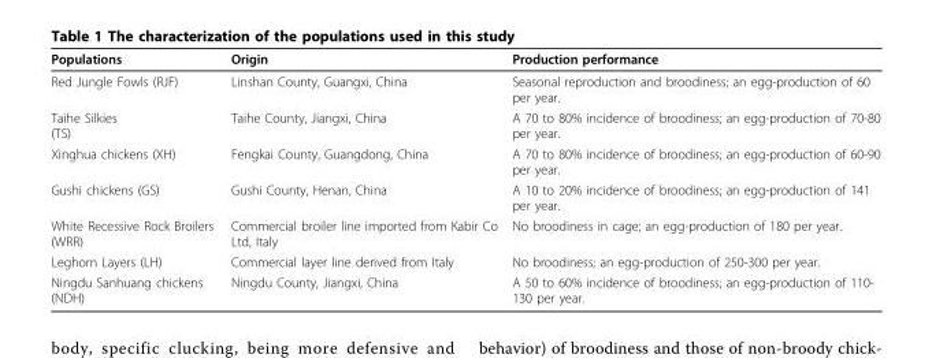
<table><thead><tr><td>Populations</td><td>Origin</td><td>Production performance</td></tr></thead><tbody><tr><td>Red Jungle Fowls (RJF)</td><td>Linshan County, Guangxi, China</td><td>Seasonal reproduction and broodiness; an egg-production of 60 per year.</td></tr><tr><td>Taihe Silkies (TS)</td><td>Taihe County, Jiangxi, China</td><td>A 70 to 80% incidence of broodiness; an egg-production of 70-80 per year.</td></tr><tr><td>Xinghua chickens (XH)</td><td>Fengkai County, Guangdong, China</td><td>A 70 to 80% incidence of broodiness; an egg-production of 60-90 per year.</td></tr><tr><td>Gushi chickens (GS)</td><td>Gushi County, Henan, China</td><td>A 10 to 20% incidence of broodiness; an egg-production of 141 per year.</td></tr><tr><td>White Recessive Rock Broilers (WRR)</td><td>Commercial broiler line imported from Kabir Co Ltd, Italy</td><td>No broodiness in cage; an egg-production of 180 per year.</td></tr><tr><td>Leghorn Layers (LH)</td><td>Commercial layer line derived from Italy</td><td>No broodiness; an egg-production of 250-300 per year.</td></tr><tr><td>Ningdu Sanhuang chickens (NDH)</td><td>Ningdu County, Jiangxi, China</td><td>A 50 to 60% incidence of broodiness; an egg-production of 110- 130 per year.</td></tr></tbody></table>